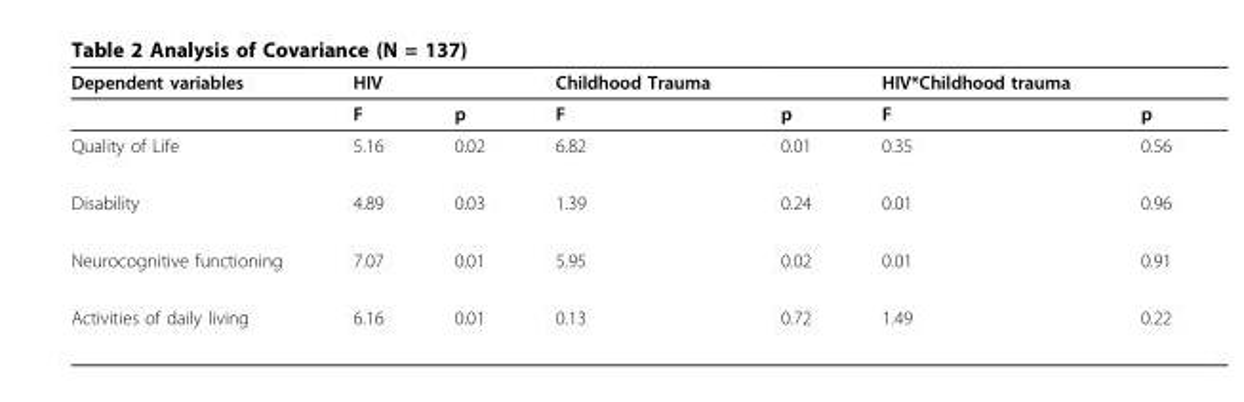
<table><thead><tr><td>Dependent variables</td><td>HIV</td><td></td><td>Childhood Trauma</td><td></td><td>HIV*Childhood trauma</td><td></td></tr></thead><tbody><tr><td></td><td>F</td><td>p</td><td>F</td><td>p</td><td>F</td><td>p</td></tr><tr><td>Quality of Life</td><td>5.16</td><td>0.02</td><td>6.82</td><td>0.01</td><td>0.35</td><td>0.56</td></tr><tr><td>Disability</td><td>4.89</td><td>0.03</td><td>1.39</td><td>0.24</td><td>0.01</td><td>0.96</td></tr><tr><td>Neurocognitive functioning</td><td>7.07</td><td>0.01</td><td>5.95</td><td>0.02</td><td>0.01</td><td>0.91</td></tr><tr><td>Activities of daily living</td><td>6.16</td><td>0.01</td><td>0.13</td><td>0.72</td><td>1.49</td><td>0.22</td></tr></tbody></table>